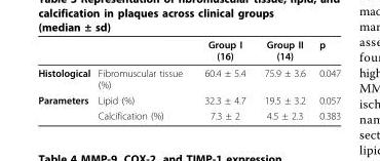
<table><thead><tr><td></td><td></td><td>Group I (16)</td><td>Group II (14)</td><td>p</td></tr></thead><tbody><tr><td>Histological</td><td>Fibromuscular tissue (%)</td><td>60.4 ± 5.4</td><td>75.9 ± 3.6</td><td>0.047</td></tr><tr><td rowspan="2">Parameters</td><td>Lipid (%)</td><td>32.3 ± 4.7</td><td>19.5 ± 3.2</td><td>0.057</td></tr><tr><td>Calcification (%)</td><td>7.3 ± 2</td><td>4.5 ± 2.3</td><td>0.383</td></tr></tbody></table>